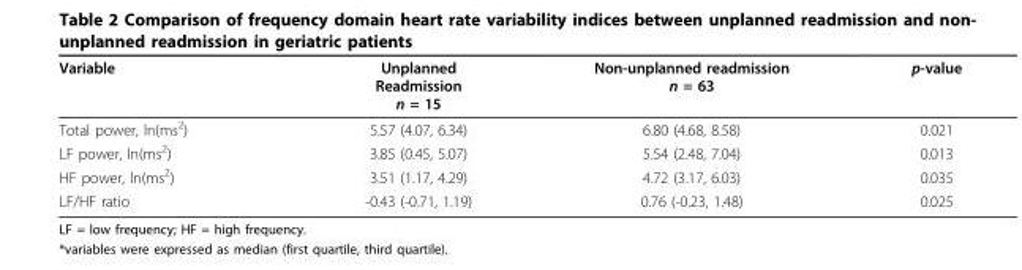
<table><thead><tr><td>Variable</td><td>Unplanned Readmission n = 15</td><td>Non-unplanned readmission n = 63</td><td>p-value</td></tr></thead><tbody><tr><td>Total power, ln(ms<sup>2</sup>)</td><td>5.57 (4.07, 6.34)</td><td>6.80 (4.68, 8.58)</td><td>0.021</td></tr><tr><td>LF power, ln(ms<sup>2</sup>)</td><td>3.85 (0.45, 5.07)</td><td>5.54 (2.48, 7.04)</td><td>0.013</td></tr><tr><td>HF power, ln(ms<sup>2</sup>)</td><td>3.51 (1.17, 4.29)</td><td>4.72 (3.17, 6.03)</td><td>0.035</td></tr><tr><td>LF/HF ratio</td><td>-0.43 (-0.71, 1.19)</td><td>0.76 (-0.23, 1.48)</td><td>0.025</td></tr></tbody></table>